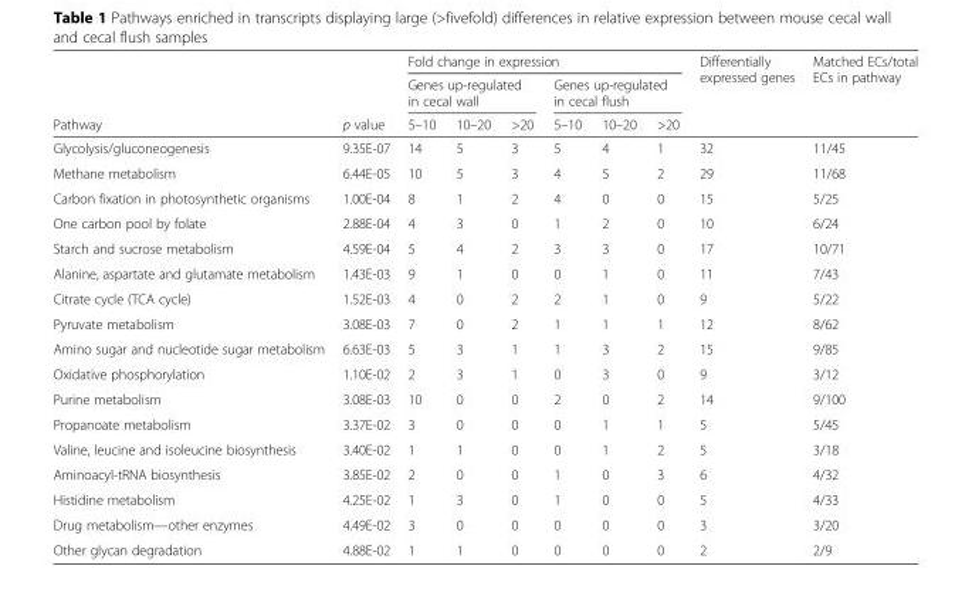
<table><thead><tr><td rowspan="3">Pathway</td><td rowspan="3">p value</td><td colspan="6">Fold change in expression</td><td rowspan="3">Differentially expressed genes</td><td rowspan="3">Matched ECs/total ECs in pathway</td></tr><tr><td colspan="3">Genes up-regulated in cecal wall</td><td colspan="3">Genes up-regulated in cecal flush</td></tr><tr><td>5–10</td><td>10–20</td><td>&gt;20</td><td>5–10</td><td>10–20</td><td>&gt;20</td></tr></thead><tbody><tr><td>Glycolysis/gluconeogenesis</td><td>9.35E-07</td><td>14</td><td>5</td><td>3</td><td>5</td><td>4</td><td>1</td><td>32</td><td>11/45</td></tr><tr><td>Methane metabolism</td><td>6.44E-05</td><td>10</td><td>5</td><td>3</td><td>4</td><td>5</td><td>2</td><td>29</td><td>11/68</td></tr><tr><td>Carbon fixation in photosynthetic organisms</td><td>1.00E-04</td><td>8</td><td>1</td><td>2</td><td>4</td><td>0</td><td>0</td><td>15</td><td>5/25</td></tr><tr><td>One carbon pool by folate</td><td>2.88E-04</td><td>4</td><td>3</td><td>0</td><td>1</td><td>2</td><td>0</td><td>10</td><td>6/24</td></tr><tr><td>Starch and sucrose metabolism</td><td>4.59E-04</td><td>5</td><td>4</td><td>2</td><td>3</td><td>3</td><td>0</td><td>17</td><td>10/71</td></tr><tr><td>Alanine, aspartate and glutamate metabolism</td><td>1.43E-03</td><td>9</td><td>1</td><td>0</td><td>0</td><td>1</td><td>0</td><td>11</td><td>7/43</td></tr><tr><td>Citrate cycle (TCA cycle)</td><td>1.52E-03</td><td>4</td><td>0</td><td>2</td><td>2</td><td>1</td><td>0</td><td>9</td><td>5/22</td></tr><tr><td>Pyruvate metabolism</td><td>3.08E-03</td><td>7</td><td>0</td><td>2</td><td>1</td><td>1</td><td>1</td><td>12</td><td>8/62</td></tr><tr><td>Amino sugar and nucleotide sugar metabolism</td><td>6.63E-03</td><td>5</td><td>3</td><td>1</td><td>1</td><td>3</td><td>2</td><td>15</td><td>9/85</td></tr><tr><td>Oxidative phosphorylation</td><td>1.10E-02</td><td>2</td><td>3</td><td>1</td><td>0</td><td>3</td><td>0</td><td>9</td><td>3/12</td></tr><tr><td>Purine metabolism</td><td>3.08E-03</td><td>10</td><td>0</td><td>0</td><td>2</td><td>0</td><td>2</td><td>14</td><td>9/100</td></tr><tr><td>Propanoate metabolism</td><td>3.37E-02</td><td>3</td><td>0</td><td>0</td><td>0</td><td>1</td><td>1</td><td>5</td><td>5/45</td></tr><tr><td>Valine, leucine and isoleucine biosynthesis</td><td>3.40E-02</td><td>1</td><td>1</td><td>0</td><td>0</td><td>1</td><td>2</td><td>5</td><td>3/18</td></tr><tr><td>Aminoacyl-tRNA biosynthesis</td><td>3.85E-02</td><td>2</td><td>0</td><td>0</td><td>1</td><td>0</td><td>3</td><td>6</td><td>4/32</td></tr><tr><td>Histidine metabolism</td><td>4.25E-02</td><td>1</td><td>3</td><td>0</td><td>1</td><td>0</td><td>0</td><td>5</td><td>4/33</td></tr><tr><td>Drug metabolism—other enzymes</td><td>4.49E-02</td><td>3</td><td>0</td><td>0</td><td>0</td><td>0</td><td>0</td><td>3</td><td>3/20</td></tr><tr><td>Other glycan degradation</td><td>4.88E-02</td><td>1</td><td>1</td><td>0</td><td>0</td><td>0</td><td>0</td><td>2</td><td>2/9</td></tr></tbody></table>